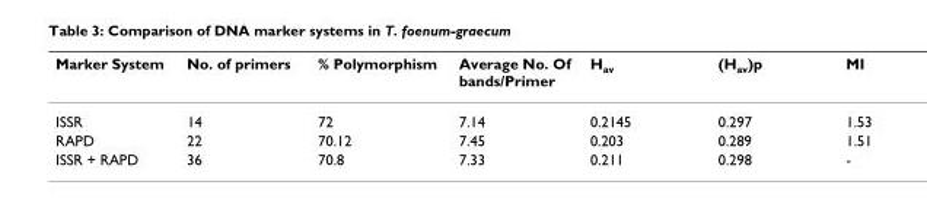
<table><thead><tr><td>Marker System</td><td>No. of primers</td><td>% Polymorphism</td><td>Average No. Of bands/Primer</td><td>Hav</td><td>(Hav)p</td><td>MI</td></tr></thead><tbody><tr><td>ISSR</td><td>14</td><td>72</td><td>7.14</td><td>0.2145</td><td>0.297</td><td>1.53</td></tr><tr><td>RAPD</td><td>22</td><td>70.12</td><td>7.45</td><td>0.203</td><td>0.289</td><td>1.51</td></tr><tr><td>ISSR + RAPD</td><td>36</td><td>70.8</td><td>7.33</td><td>0.211</td><td>0.298</td><td>-</td></tr></tbody></table>